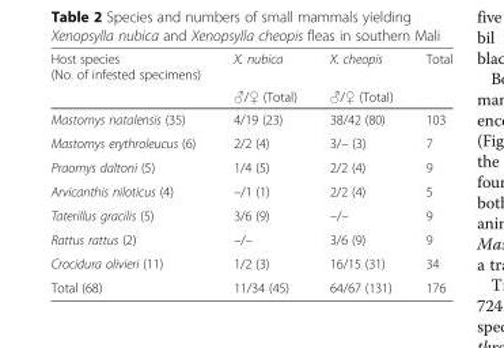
<table><thead><tr><td rowspan="2">Host species (No. of infested specimens)</td><td rowspan="2">X. nubica ♂/♀ (Total)</td><td rowspan="2">X. cheopis ♂/♀ (Total)</td><td rowspan="2">Total</td></tr><tr></tr></thead><tbody><tr><td>Mastomys natalensis (35)</td><td>4/19 (23)</td><td>38/42 (80)</td><td>103</td></tr><tr><td>Mastomys erythroleucus (6)</td><td>2/2 (4)</td><td>3/– (3)</td><td>7</td></tr><tr><td>Praomys daltoni (5)</td><td>1/4 (5)</td><td>2/2 (4)</td><td>9</td></tr><tr><td>Arvicanthis niloticus (4)</td><td>–/1 (1)</td><td>2/2 (4)</td><td>5</td></tr><tr><td>Taterillus gracilis (5)</td><td>3/6 (9)</td><td>–/–</td><td>9</td></tr><tr><td>Rattus rattus (2)</td><td>–/–</td><td>3/6 (9)</td><td>9</td></tr><tr><td>Crocidura olivieri (11)</td><td>1/2 (3)</td><td>16/15 (31)</td><td>34</td></tr><tr><td>Total (68)</td><td>11/34 (45)</td><td>64/67 (131)</td><td>176</td></tr></tbody></table>